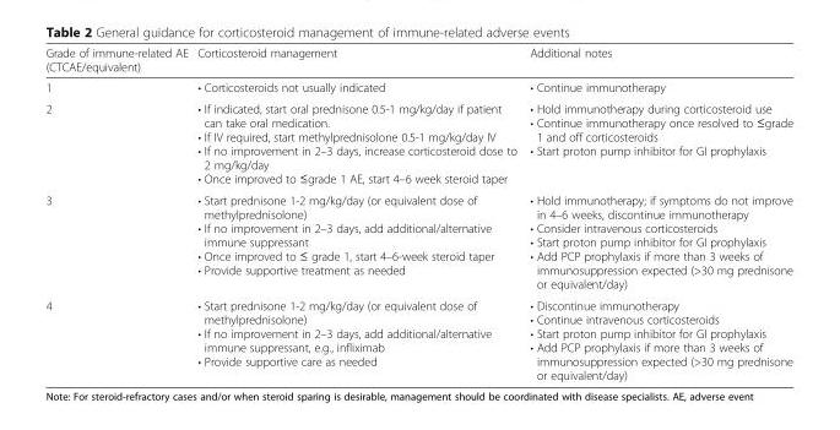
<table><thead><tr><td>Grade of immune-related AE (CTCAE/equivalent)</td><td>Corticosteroid management</td><td>Additional notes</td></tr></thead><tbody><tr><td>1</td><td>• Corticosteroids not usually indicated</td><td>• Continue immunotherapy</td></tr><tr><td>2</td><td>• If indicated, start oral prednisone 0.5-1 mg/kg/day if patient can take oral medication. • If IV required, start methylprednisolone 0.5-1 mg/kg/day IV • If no improvement in 2–3 days, increase corticosteroid dose to 2 mg/kg/day • Once improved to ≤grade 1 AE, start 4–6 week steroid taper</td><td>• Hold immunotherapy during corticosteroid use • Continue immunotherapy once resolved to ≤grade 1 and off corticosteroids • Start proton pump inhibitor for GI prophylaxis</td></tr><tr><td>3</td><td>• Start prednisone 1-2 mg/kg/day (or equivalent dose of methylprednisolone) • If no improvement in 2–3 days, add additional/alternative immune suppressant • Once improved to ≤ grade 1, start 4–6-week steroid taper • Provide supportive treatment as needed</td><td>• Hold immunotherapy; if symptoms do not improve in 4–6 weeks, discontinue immunotherapy • Consider intravenous corticosteroids • Start proton pump inhibitor for GI prophylaxis • Add PCP prophylaxis if more than 3 weeks of immunosuppression expected (&gt;30 mg prednisone or equivalent/day)</td></tr><tr><td>4</td><td>• Start prednisone 1-2 mg/kg/day (or equivalent dose of methylprednisolone) • If no improvement in 2–3 days, add additional/alternative immune suppressant, e.g., infliximab • Provide supportive care as needed</td><td>• Discontinue immunotherapy • Continue intravenous corticosteroids • Start proton pump inhibitor for GI prophylaxis • Add PCP prophylaxis if more than 3 weeks of immunosuppression expected (&gt;30 mg prednisone or equivalent/day)</td></tr></tbody></table>